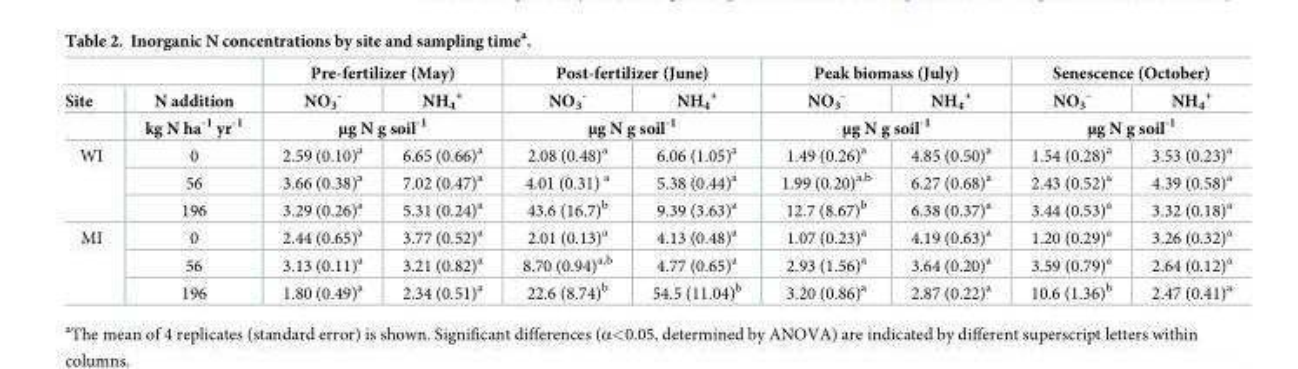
<table><thead><tr><td rowspan="3">Site</td><td rowspan="3">N addition kg N ha<sup>-1</sup> yr<sup>-1</sup></td><td colspan="2">Pre-fertilizer (May)</td><td colspan="2">Post-fertilizer (June)</td><td colspan="2">Peak biomass (July)</td><td colspan="2">Senescence (October)</td></tr><tr><td>NO<sub>3</sub> <sup>-</sup></td><td>NH<sub>4</sub> <sup>+</sup></td><td>NO<sub>3</sub> <sup>-</sup></td><td>NH<sub>4</sub> <sup>+</sup></td><td>NO<sub>3</sub> <sup>-</sup></td><td>NH<sub>4</sub> <sup>+</sup></td><td>NO<sub>3</sub> <sup>-</sup></td><td>NH<sub>4</sub> <sup>+</sup></td></tr><tr><td colspan="2">μg N g soil<sup>-1</sup></td><td colspan="2">μg N g soil<sup>-1</sup></td><td colspan="2">μg N g soil<sup>-1</sup></td><td colspan="2">μg N g soil<sup>-1</sup></td></tr></thead><tbody><tr><td rowspan="3">WI</td><td>0</td><td>2.59 (0.10)<sup>a</sup></td><td>6.65 (0.66)<sup>a</sup></td><td>2.08 (0.48)<sup>a</sup></td><td>6.06 (1.05)<sup>a</sup></td><td>1.49 (0.26)<sup>a</sup></td><td>4.85 (0.50)<sup>a</sup></td><td>1.54 (0.28)<sup>a</sup></td><td>3.53 (0.23)<sup>a</sup></td></tr><tr><td>56</td><td>3.66 (0.38)<sup>a</sup></td><td>7.02 (0.47)<sup>a</sup></td><td>4.01 (0.31) <sup>a</sup></td><td>5.38 (0.44)<sup>a</sup></td><td>1.99 (0.20)<sup>a,b</sup></td><td>6.27 (0.68)<sup>a</sup></td><td>2.43 (0.52)<sup>a</sup></td><td>4.39 (0.58)<sup>a</sup></td></tr><tr><td>196</td><td>3.29 (0.26)<sup>a</sup></td><td>5.31 (0.24)<sup>a</sup></td><td>43.6 (16.7)<sup>b</sup></td><td>9.39 (3.63)<sup>a</sup></td><td>12.7 (8.67)<sup>b</sup></td><td>6.38 (0.37)<sup>a</sup></td><td>3.44 (0.53)<sup>a</sup></td><td>3.32 (0.18)<sup>a</sup></td></tr><tr><td rowspan="3">MI</td><td>0</td><td>2.44 (0.65)<sup>a</sup></td><td>3.77 (0.52)<sup>a</sup></td><td>2.01 (0.13)<sup>a</sup></td><td>4.13 (0.48)<sup>a</sup></td><td>1.07 (0.23)<sup>a</sup></td><td>4.19 (0.63)<sup>a</sup></td><td>1.20 (0.29)<sup>a</sup></td><td>3.26 (0.32)<sup>a</sup></td></tr><tr><td>56</td><td>3.13 (0.11)<sup>a</sup></td><td>3.21 (0.82)<sup>a</sup></td><td>8.70 (0.94)<sup>a,b</sup></td><td>4.77 (0.65)<sup>a</sup></td><td>2.93 (1.56)<sup>a</sup></td><td>3.64 (0.20)<sup>a</sup></td><td>3.59 (0.79)<sup>a</sup></td><td>2.64 (0.12)<sup>a</sup></td></tr><tr><td>196</td><td>1.80 (0.49)<sup>a</sup></td><td>2.34 (0.51)<sup>a</sup></td><td>22.6 (8.74)<sup>b</sup></td><td>54.5 (11.04)<sup>b</sup></td><td>3.20 (0.86)<sup>a</sup></td><td>2.87 (0.22)<sup>a</sup></td><td>10.6 (1.36)<sup>b</sup></td><td>2.47 (0.41)<sup>a</sup></td></tr></tbody></table>